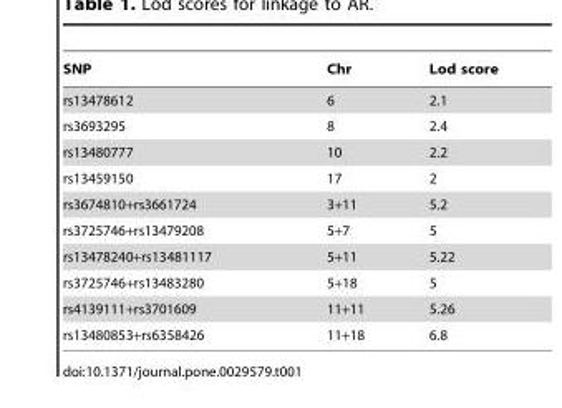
<table><thead><tr><td>SNP</td><td>Chr</td><td>Lod score</td></tr></thead><tbody><tr><td>rs13478612</td><td>6</td><td>2.1</td></tr><tr><td>rs3693295</td><td>8</td><td>2.4</td></tr><tr><td>rs13480777</td><td>10</td><td>2.2</td></tr><tr><td>rs13459150</td><td>17</td><td>2</td></tr><tr><td>rs3674810+rs3661724</td><td>3+11</td><td>5.2</td></tr><tr><td>rs3725746+rs13479208</td><td>5+7</td><td>5</td></tr><tr><td>rs13478240+rs13481117</td><td>5+11</td><td>5.22</td></tr><tr><td>rs3725746+rs13483280</td><td>5+18</td><td>5</td></tr><tr><td>rs4139111+rs3701609</td><td>11+11</td><td>5.26</td></tr><tr><td>rs13480853+rs6358426</td><td>11+18</td><td>6.8</td></tr></tbody></table>